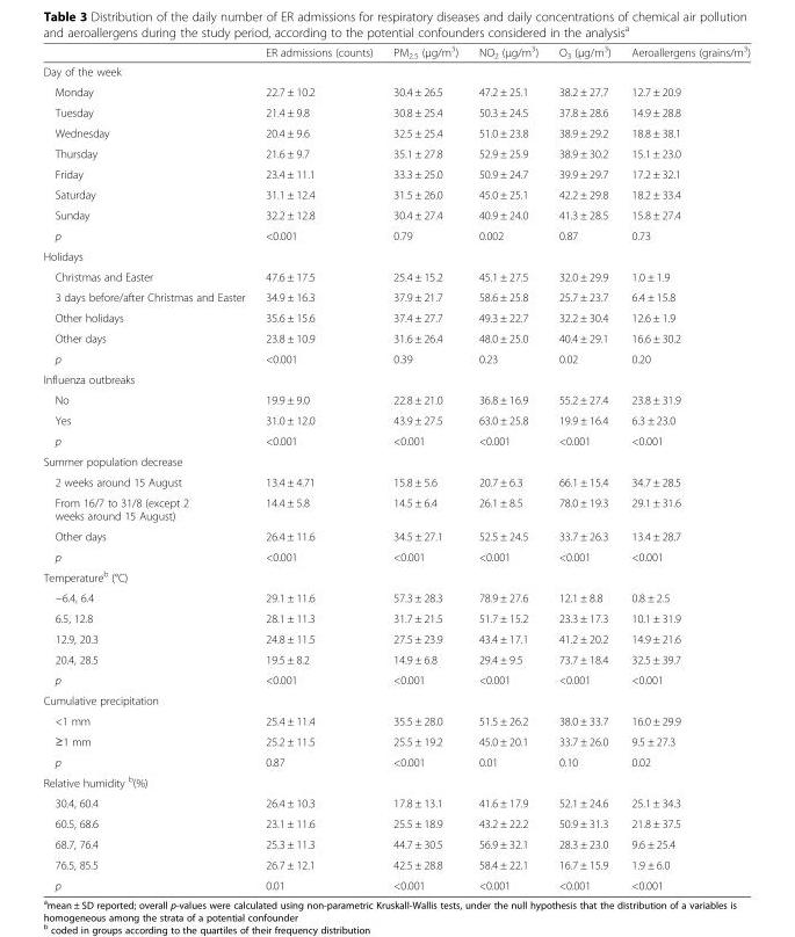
<table><thead><tr><td></td><td>ER admissions (counts)</td><td>PM<sub>2.5</sub> (μg/m<sup>3</sup>)</td><td>NO<sub>2</sub> (μg/m<sup>3</sup>)</td><td>O<sub>3</sub> (μg/m<sup>3</sup>)</td><td>Aeroallergens (grains/m<sup>3</sup>)</td></tr></thead><tbody><tr><td colspan="6">Day of the week</td></tr><tr><td>Monday</td><td>22.7 ± 10.2</td><td>30.4 ± 26.5</td><td>47.2 ± 25.1</td><td>38.2 ± 27.7</td><td>12.7 ± 20.9</td></tr><tr><td>Tuesday</td><td>21.4 ± 9.8</td><td>30.8 ± 25.4</td><td>50.3 ± 24.5</td><td>37.8 ± 28.6</td><td>14.9 ± 28.8</td></tr><tr><td>Wednesday</td><td>20.4 ± 9.6</td><td>32.5 ± 25.4</td><td>51.0 ± 23.8</td><td>38.9 ± 29.2</td><td>18.8 ± 38.1</td></tr><tr><td>Thursday</td><td>21.6 ± 9.7</td><td>35.1 ± 27.8</td><td>52.9 ± 25.9</td><td>38.9 ± 30.2</td><td>15.1 ± 23.0</td></tr><tr><td>Friday</td><td>23.4 ± 11.1</td><td>33.3 ± 25.0</td><td>50.9 ± 24.7</td><td>39.9 ± 29.7</td><td>17.2 ± 32.1</td></tr><tr><td>Saturday</td><td>31.1 ± 12.4</td><td>31.5 ± 26.0</td><td>45.0 ± 25.1</td><td>42.2 ± 29.8</td><td>18.2 ± 33.4</td></tr><tr><td>Sunday</td><td>32.2 ± 12.8</td><td>30.4 ± 27.4</td><td>40.9 ± 24.0</td><td>41.3 ± 28.5</td><td>15.8 ± 27.4</td></tr><tr><td>p</td><td>&lt;0.001</td><td>0.79</td><td>0.002</td><td>0.87</td><td>0.73</td></tr><tr><td colspan="6">Holidays</td></tr><tr><td>Christmas and Easter</td><td>47.6 ± 17.5</td><td>25.4 ± 15.2</td><td>45.1 ± 27.5</td><td>32.0 ± 29.9</td><td>1.0 ± 1.9</td></tr><tr><td>3 days before/after Christmas and Easter</td><td>34.9 ± 16.3</td><td>37.9 ± 21.7</td><td>58.6 ± 25.8</td><td>25.7 ± 23.7</td><td>6.4 ± 15.8</td></tr><tr><td>Other holidays</td><td>35.6 ± 15.6</td><td>37.4 ± 27.7</td><td>49.3 ± 22.7</td><td>32.2 ± 30.4</td><td>12.6 ± 1.9</td></tr><tr><td>Other days</td><td>23.8 ± 10.9</td><td>31.6 ± 26.4</td><td>48.0 ± 25.0</td><td>40.4 ± 29.1</td><td>16.6 ± 30.2</td></tr><tr><td>p</td><td>&lt;0.001</td><td>0.39</td><td>0.23</td><td>0.02</td><td>0.20</td></tr><tr><td colspan="6">Influenza outbreaks</td></tr><tr><td>No</td><td>19.9 ± 9.0</td><td>22.8 ± 21.0</td><td>36.8 ± 16.9</td><td>55.2 ± 27.4</td><td>23.8 ± 31.9</td></tr><tr><td>Yes</td><td>31.0 ± 12.0</td><td>43.9 ± 27.5</td><td>63.0 ± 25.8</td><td>19.9 ± 16.4</td><td>6.3 ± 23.0</td></tr><tr><td>p</td><td>&lt;0.001</td><td>&lt;0.001</td><td>&lt;0.001</td><td>&lt;0.001</td><td>&lt;0.001</td></tr><tr><td colspan="6">Summer population decrease</td></tr><tr><td>2 weeks around 15 August</td><td>13.4 ± 4.71</td><td>15.8 ± 5.6</td><td>20.7 ± 6.3</td><td>66.1 ± 15.4</td><td>34.7 ± 28.5</td></tr><tr><td>From 16/7 to 31/8 (except 2 weeks around 15 August)</td><td>14.4 ± 5.8</td><td>14.5 ± 6.4</td><td>26.1 ± 8.5</td><td>78.0 ± 19.3</td><td>29.1 ± 31.6</td></tr><tr><td>Other days</td><td>26.4 ± 11.6</td><td>34.5 ± 27.1</td><td>52.5 ± 24.5</td><td>33.7 ± 26.3</td><td>13.4 ± 28.7</td></tr><tr><td>p</td><td>&lt;0.001</td><td>&lt;0.001</td><td>&lt;0.001</td><td>&lt;0.001</td><td>&lt;0.001</td></tr><tr><td colspan="6">Temperature<sup>b</sup> (°C)</td></tr><tr><td>−6.4, 6.4</td><td>29.1 ± 11.6</td><td>57.3 ± 28.3</td><td>78.9 ± 27.6</td><td>12.1 ± 8.8</td><td>0.8 ± 2.5</td></tr><tr><td>6.5, 12.8</td><td>28.1 ± 11.3</td><td>31.7 ± 21.5</td><td>51.7 ± 15.2</td><td>23.3 ± 17.3</td><td>10.1 ± 31.9</td></tr><tr><td>12.9, 20.3</td><td>24.8 ± 11.5</td><td>27.5 ± 23.9</td><td>43.4 ± 17.1</td><td>41.2 ± 20.2</td><td>14.9 ± 21.6</td></tr><tr><td>20.4, 28.5</td><td>19.5 ± 8.2</td><td>14.9 ± 6.8</td><td>29.4 ± 9.5</td><td>73.7 ± 18.4</td><td>32.5 ± 39.7</td></tr><tr><td>p</td><td>&lt;0.001</td><td>&lt;0.001</td><td>&lt;0.001</td><td>&lt;0.001</td><td>&lt;0.001</td></tr><tr><td colspan="6">Cumulative precipitation</td></tr><tr><td>&lt;1 mm</td><td>25.4 ± 11.4</td><td>35.5 ± 28.0</td><td>51.5 ± 26.2</td><td>38.0 ± 33.7</td><td>16.0 ± 29.9</td></tr><tr><td>≥1 mm</td><td>25.2 ± 11.5</td><td>25.5 ± 19.2</td><td>45.0 ± 20.1</td><td>33.7 ± 26.0</td><td>9.5 ± 27.3</td></tr><tr><td>p</td><td>0.87</td><td>&lt;0.001</td><td>0.01</td><td>0.10</td><td>0.02</td></tr><tr><td colspan="6">Relative humidity <sup>b</sup>(%)</td></tr><tr><td>30.4, 60.4</td><td>26.4 ± 10.3</td><td>17.8 ± 13.1</td><td>41.6 ± 17.9</td><td>52.1 ± 24.6</td><td>25.1 ± 34.3</td></tr><tr><td>60.5, 68.6</td><td>23.1 ± 11.6</td><td>25.5 ± 18.9</td><td>43.2 ± 22.2</td><td>50.9 ± 31.3</td><td>21.8 ± 37.5</td></tr><tr><td>68.7, 76.4</td><td>25.3 ± 11.3</td><td>44.7 ± 30.5</td><td>56.9 ± 32.1</td><td>28.3 ± 23.0</td><td>9.6 ± 25.4</td></tr><tr><td>76.5, 85.5</td><td>26.7 ± 12.1</td><td>42.5 ± 28.8</td><td>58.4 ± 22.1</td><td>16.7 ± 15.9</td><td>1.9 ± 6.0</td></tr><tr><td>p</td><td>0.01</td><td>&lt;0.001</td><td>&lt;0.001</td><td>&lt;0.001</td><td>&lt;0.001</td></tr></tbody></table>